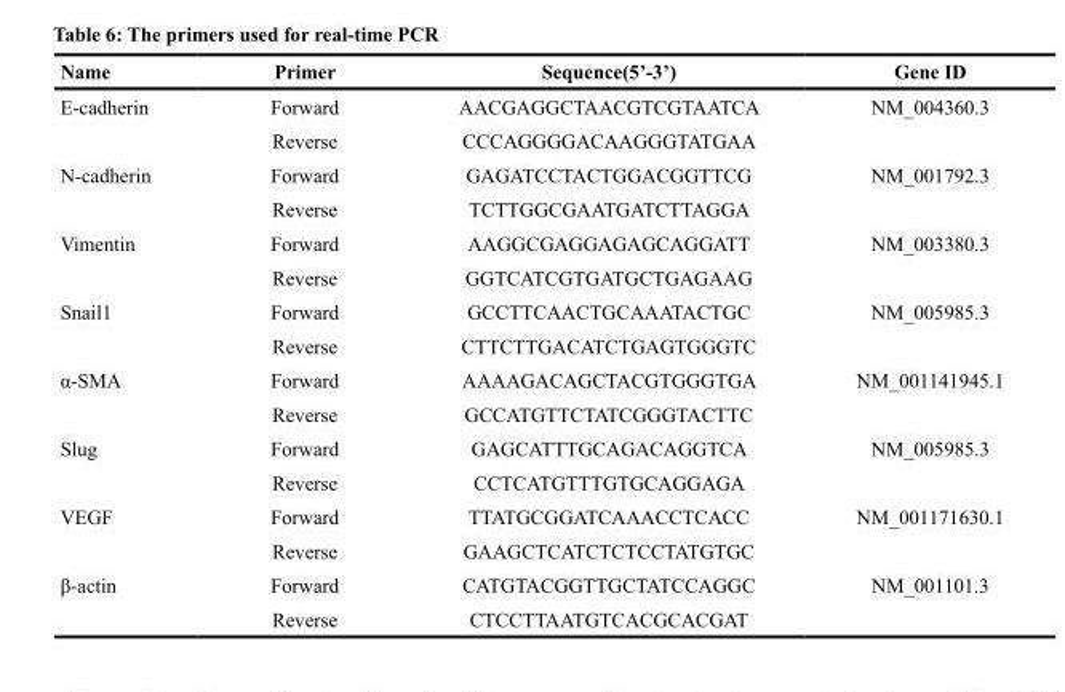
<table><thead><tr><td>Name</td><td>Primer</td><td>Sequence(5’-3’)</td><td>Gene ID</td></tr></thead><tbody><tr><td rowspan="2">E-cadherin</td><td>Forward</td><td>AACGAGGCTAACGTCGTAATCA</td><td>NM_004360.3</td></tr><tr><td>Reverse</td><td>CCCAGGGGACAAGGGTATGAA</td><td></td></tr><tr><td rowspan="2">N-cadherin</td><td>Forward</td><td>GAGATCCTACTGGACGGTTCG</td><td>NM_001792.3</td></tr><tr><td>Reverse</td><td>TCTTGGCGAATGATCTTAGGA</td><td></td></tr><tr><td rowspan="2">Vimentin</td><td>Forward</td><td>AAGGCGAGGAGAGCAGGATT</td><td>NM_003380.3</td></tr><tr><td>Reverse</td><td>GGTCATCGTGATGCTGAGAAG</td><td></td></tr><tr><td rowspan="2">Snail1</td><td>Forward</td><td>GCCTTCAACTGCAAATACTGC</td><td>NM_005985.3</td></tr><tr><td>Reverse</td><td>CTTCTTGACATCTGAGTGGGTC</td><td></td></tr><tr><td rowspan="2">α-SMA</td><td>Forward</td><td>AAAAGACAGCTACGTGGGTGA</td><td>NM_001141945.1</td></tr><tr><td>Reverse</td><td>GCCATGTTCTATCGGGTACTTC</td><td></td></tr><tr><td rowspan="2">Slug</td><td>Forward</td><td>GAGCATTTGCAGACAGGTCA</td><td>NM_005985.3</td></tr><tr><td>Reverse</td><td>CCTCATGTTTGTGCAGGAGA</td><td></td></tr><tr><td rowspan="2">VEGF</td><td>Forward</td><td>TTATGCGGATCAAACCTCACC</td><td>NM_001171630.1</td></tr><tr><td>Reverse</td><td>GAAGCTCATCTCTCCTATGTGC</td><td></td></tr><tr><td rowspan="2">β-actin</td><td>Forward</td><td>CATGTACGGTTGCTATCCAGGC</td><td>NM_001101.3</td></tr><tr><td>Reverse</td><td>CTCCTTAATGTCACGCACGAT</td><td></td></tr></tbody></table>